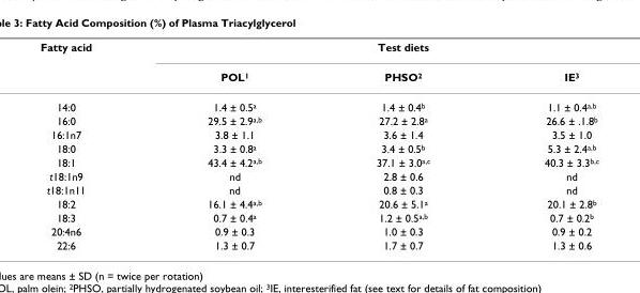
<table><thead><tr><td rowspan="2">Fatty acid</td><td colspan="3">Test diets</td></tr><tr><td>POL<sup>1</sup></td><td>PHSO<sup>2</sup></td><td>IE<sup>3</sup></td></tr></thead><tbody><tr><td>14:0</td><td>1.4 ± 0.5<sup>a</sup></td><td>1.4 ± 0.4<sup>b</sup></td><td>1.1 ± 0.4<sup>a,b</sup></td></tr><tr><td>16:0</td><td>29.5 ± 2.9<sup>a,b</sup></td><td>27.2 ± 2.8<sup>a</sup></td><td>26.6 ± .1.8<sup>b</sup></td></tr><tr><td>16:1n7</td><td>3.8 ± 1.1</td><td>3.6 ± 1.4</td><td>3.5 ± 1.0</td></tr><tr><td>18:0</td><td>3.3 ± 0.8<sup>a</sup></td><td>3.4 ± 0.5<sup>b</sup></td><td>5.3 ± 2.4<sup>a,b</sup></td></tr><tr><td>18:1</td><td>43.4 ± 4.2<sup>a,b</sup></td><td>37.1 ± 3.0<sup>a,c</sup></td><td>40.3 ± 3.3<sup>b,c</sup></td></tr><tr><td>t18:1n9</td><td>nd</td><td>2.8 ± 0.6</td><td>nd</td></tr><tr><td>t18:1n11</td><td>nd</td><td>0.8 ± 0.3</td><td>nd</td></tr><tr><td>18:2</td><td>16.1 ± 4.4<sup>a,b</sup></td><td>20.6 ± 5.1<sup>a</sup></td><td>20.1 ± 2.8<sup>b</sup></td></tr><tr><td>18:3</td><td>0.7 ± 0.4<sup>a</sup></td><td>1.2 ± 0.5<sup>a,b</sup></td><td>0.7 ± 0.2<sup>b</sup></td></tr><tr><td>20:4n6</td><td>0.9 ± 0.3</td><td>1.0 ± 0.3</td><td>0.9 ± 0.2</td></tr><tr><td>22:6</td><td>1.3 ± 0.7</td><td>1.7 ± 0.7</td><td>1.3 ± 0.6</td></tr></tbody></table>